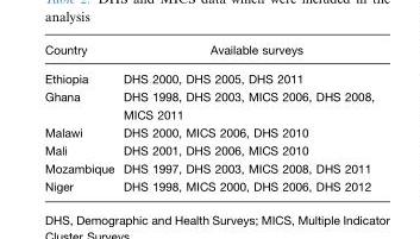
<table><thead><tr><td>Country</td><td>Available surveys</td></tr></thead><tbody><tr><td>Ethiopia</td><td>DHS 2000, DHS 2005, DHS 2011</td></tr><tr><td>Ghana</td><td>DHS 1998, DHS 2003, MICS 2006, DHS 2008, MICS 2011</td></tr><tr><td>Malawi</td><td>DHS 2000, MICS 2006, DHS 2010</td></tr><tr><td>Mali</td><td>DHS 2001, DHS 2006, MICS 2010</td></tr><tr><td>Mozambique</td><td>DHS 1997, DHS 2003, MICS 2008, DHS 2011</td></tr><tr><td>Niger</td><td>DHS 1998, MICS 2000, DHS 2006, DHS 2012</td></tr></tbody></table>